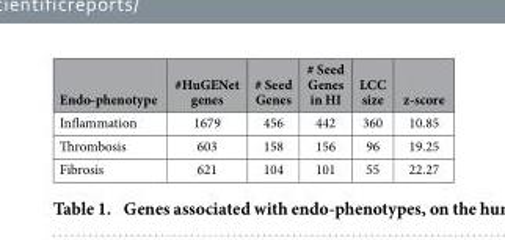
<table><thead><tr><td>Endo-phenotype</td><td>#HuGENet genes</td><td># Seed Genes</td><td># Seed Genes in HI</td><td>LCC size</td><td>z-score</td></tr></thead><tbody><tr><td>Inflammation</td><td>1679</td><td>456</td><td>442</td><td>360</td><td>10.85</td></tr><tr><td>Thrombosis</td><td>603</td><td>158</td><td>156</td><td>96</td><td>19.25</td></tr><tr><td>Fibrosis</td><td>621</td><td>104</td><td>101</td><td>55</td><td>22.27</td></tr></tbody></table>